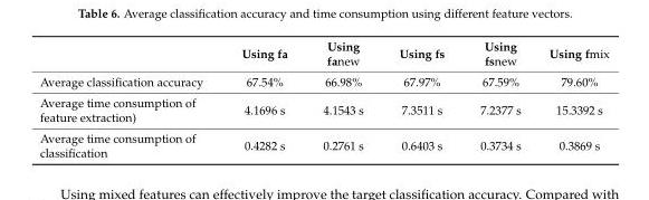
<table><thead><tr><td></td><td>Using fa</td><td>Using fanew</td><td>Using fs</td><td>Using fsnew</td><td>Using fmix</td></tr></thead><tbody><tr><td>Average classification accuracy</td><td>67.54%</td><td>66.98%</td><td>67.97%</td><td>67.59%</td><td>79.60%</td></tr><tr><td>Average time consumption of feature extraction)</td><td>4.1696 s</td><td>4.1543 s</td><td>7.3511 s</td><td>7.2377 s</td><td>15.3392 s</td></tr><tr><td>Average time consumption of classification</td><td>0.4282 s</td><td>0.2761 s</td><td>0.6403 s</td><td>0.3734 s</td><td>0.3869 s</td></tr></tbody></table>